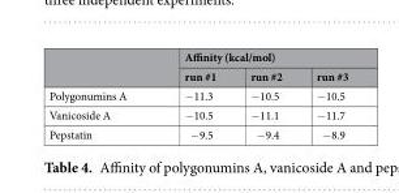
<table><thead><tr><td rowspan="2"></td><td colspan="3">Affinity (kcal/mol)</td></tr><tr><td>run #1</td><td>run #2</td><td>run #3</td></tr></thead><tbody><tr><td>Polygonumins A</td><td>−11.3</td><td>−10.5</td><td>−10.5</td></tr><tr><td>Vanicoside A</td><td>−10.5</td><td>−11.1</td><td>−11.7</td></tr><tr><td>Pepstatin</td><td>−9.5</td><td>−9.4</td><td>−8.9</td></tr></tbody></table>